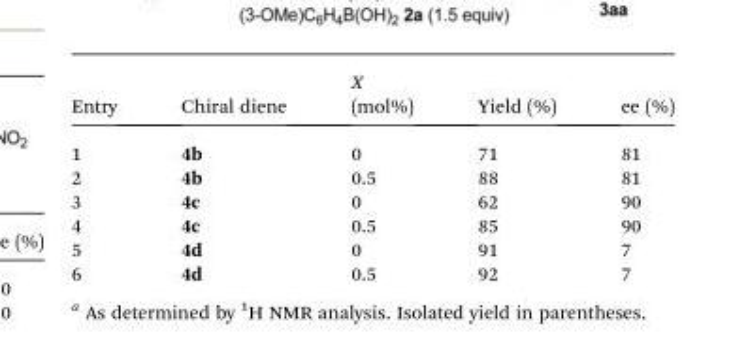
<table><thead><tr><td>Entry</td><td>Chiral diene</td><td>X (mol%)</td><td>Yield (%)</td><td>ee (%)</td></tr></thead><tbody><tr><td>1</td><td>4b</td><td>0</td><td>71</td><td>81</td></tr><tr><td>2</td><td>4b</td><td>0.5</td><td>88</td><td>81</td></tr><tr><td>3</td><td>4c</td><td>0</td><td>62</td><td>90</td></tr><tr><td>4</td><td>4c</td><td>0.5</td><td>85</td><td>90</td></tr><tr><td>5</td><td>4d</td><td>0</td><td>91</td><td>7</td></tr><tr><td>6</td><td>4d</td><td>0.5</td><td>92</td><td>7</td></tr></tbody></table>